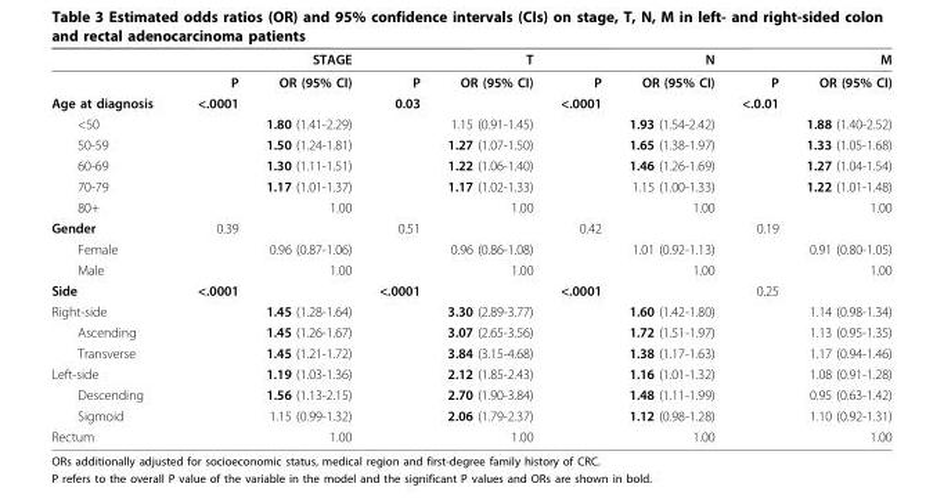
<table><thead><tr><td rowspan="2"></td><td colspan="2">STAGE</td><td colspan="2">T</td><td colspan="2">N</td><td colspan="2">M</td></tr><tr><td>P</td><td>OR (95% CI)</td><td>P</td><td>OR (95% CI)</td><td>P</td><td>OR (95% CI)</td><td>P</td><td>OR (95% CI)</td></tr></thead><tbody><tr><td>Age at diagnosis</td><td>&lt;.0001</td><td></td><td>0.03</td><td></td><td>&lt;.0001</td><td></td><td>&lt;.0.01</td><td></td></tr><tr><td>&lt;50</td><td></td><td>1.80 (1.41-2.29)</td><td></td><td>1.15 (0.91-1.45)</td><td></td><td>1.93 (1.54-2.42)</td><td></td><td>1.88 (1.40-2.52)</td></tr><tr><td>50-59</td><td></td><td>1.50 (1.24-1.81)</td><td></td><td>1.27 (1.07-1.50)</td><td></td><td>1.65 (1.38-1.97)</td><td></td><td>1.33 (1.05-1.68)</td></tr><tr><td>60-69</td><td></td><td>1.30 (1.11-1.51)</td><td></td><td>1.22 (1.06-1.40)</td><td></td><td>1.46 (1.26-1.69)</td><td></td><td>1.27 (1.04-1.54)</td></tr><tr><td>70-79</td><td></td><td>1.17 (1.01-1.37)</td><td></td><td>1.17 (1.02-1.33)</td><td></td><td>1.15 (1.00-1.33)</td><td></td><td>1.22 (1.01-1.48)</td></tr><tr><td>80+</td><td></td><td>1.00</td><td></td><td>1.00</td><td></td><td>1.00</td><td></td><td>1.00</td></tr><tr><td>Gender</td><td>0.39</td><td></td><td>0.51</td><td></td><td>0.42</td><td></td><td>0.19</td><td></td></tr><tr><td>Female</td><td></td><td>0.96 (0.87-1.06)</td><td></td><td>0.96 (0.86-1.08)</td><td></td><td>1.01 (0.92-1.13)</td><td></td><td>0.91 (0.80-1.05)</td></tr><tr><td>Male</td><td></td><td>1.00</td><td></td><td>1.00</td><td></td><td>1.00</td><td></td><td>1.00</td></tr><tr><td>Side</td><td>&lt;.0001</td><td></td><td>&lt;.0001</td><td></td><td>&lt;.0001</td><td></td><td>0.25</td><td></td></tr><tr><td>Right-side</td><td></td><td>1.45 (1.28-1.64)</td><td></td><td>3.30 (2.89-3.77)</td><td></td><td>1.60 (1.42-1.80)</td><td></td><td>1.14 (0.98-1.34)</td></tr><tr><td>Ascending</td><td></td><td>1.45 (1.26-1.67)</td><td></td><td>3.07 (2.65-3.56)</td><td></td><td>1.72 (1.51-1.97)</td><td></td><td>1.13 (0.95-1.35)</td></tr><tr><td>Transverse</td><td></td><td>1.45 (1.21-1.72)</td><td></td><td>3.84 (3.15-4.68)</td><td></td><td>1.38 (1.17-1.63)</td><td></td><td>1.17 (0.94-1.46)</td></tr><tr><td>Left-side</td><td></td><td>1.19 (1.03-1.36)</td><td></td><td>2.12 (1.85-2.43)</td><td></td><td>1.16 (1.01-1.32)</td><td></td><td>1.08 (0.91-1.28)</td></tr><tr><td>Descending</td><td></td><td>1.56 (1.13-2.15)</td><td></td><td>2.70 (1.90-3.84)</td><td></td><td>1.48 (1.11-1.99)</td><td></td><td>0.95 (0.63-1.42)</td></tr><tr><td>Sigmoid</td><td></td><td>1.15 (0.99-1.32)</td><td></td><td>2.06 (1.79-2.37)</td><td></td><td>1.12 (0.98-1.28)</td><td></td><td>1.10 (0.92-1.31)</td></tr><tr><td>Rectum</td><td></td><td>1.00</td><td></td><td>1.00</td><td></td><td>1.00</td><td></td><td>1.00</td></tr></tbody></table>